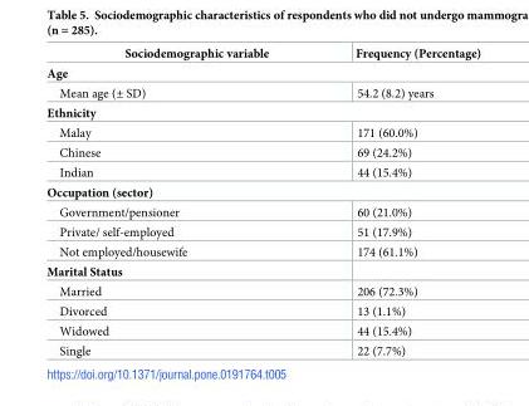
<table><thead><tr><td>Sociodemographic variable</td><td>Frequency (Percentage)</td></tr></thead><tbody><tr><td colspan="2">Age</td></tr><tr><td>Mean age (± SD)</td><td>54.2 (8.2) years</td></tr><tr><td colspan="2">Ethnicity</td></tr><tr><td>Malay</td><td>171 (60.0%)</td></tr><tr><td>Chinese</td><td>69 (24.2%)</td></tr><tr><td>Indian</td><td>44 (15.4%)</td></tr><tr><td colspan="2">Occupation (sector)</td></tr><tr><td>Government/pensioner</td><td>60 (21.0%)</td></tr><tr><td>Private/ self-employed</td><td>51 (17.9%)</td></tr><tr><td>Not employed/housewife</td><td>174 (61.1%)</td></tr><tr><td colspan="2">Marital Status</td></tr><tr><td>Married</td><td>206 (72.3%)</td></tr><tr><td>Divorced</td><td>13 (1.1%)</td></tr><tr><td>Widowed</td><td>44 (15.4%)</td></tr><tr><td>Single</td><td>22 (7.7%)</td></tr></tbody></table>